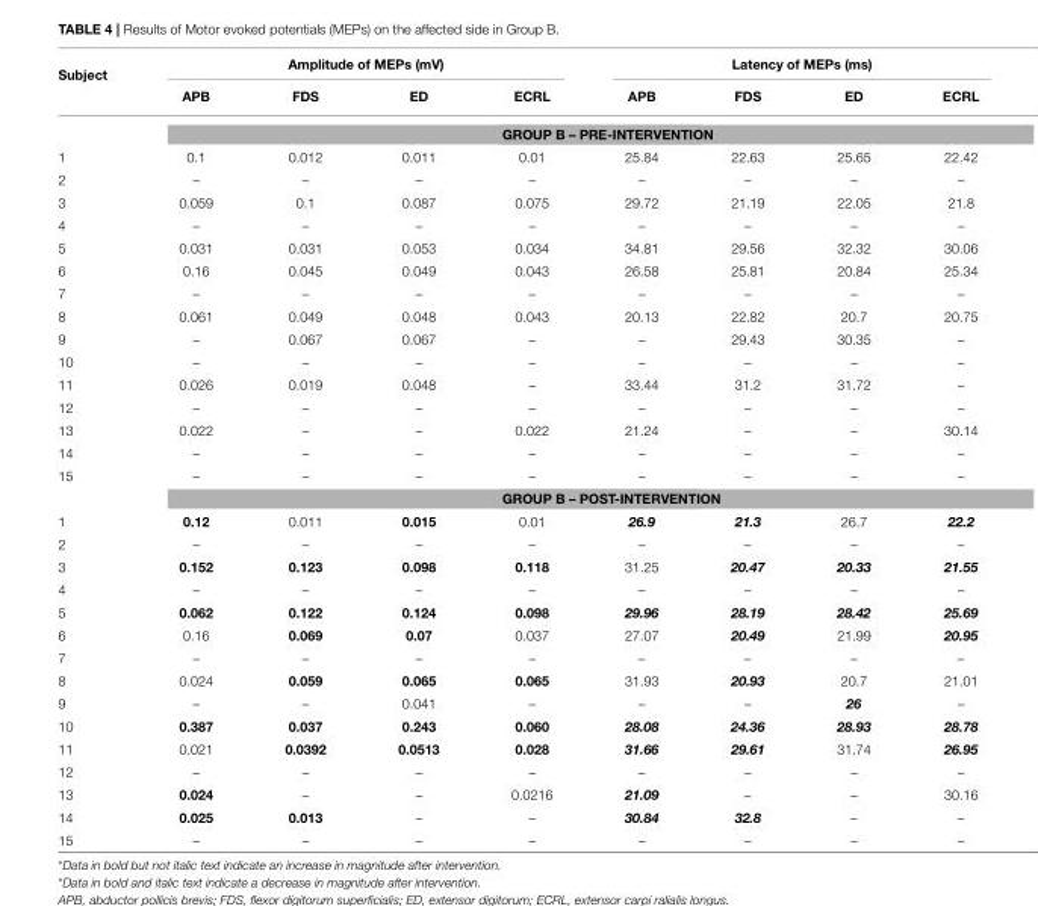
<table><thead><tr><td rowspan="2">Subject</td><td colspan="4">Amplitude of MEPs (mV)</td><td colspan="4">Latency of MEPs (ms)</td></tr><tr><td>APB</td><td>FDS</td><td>ED</td><td>ECRL</td><td>APB</td><td>FDS</td><td>ED</td><td>ECRL</td></tr></thead><tbody><tr><td></td><td colspan="8">GROUP B – PRE-INTERVENTION</td></tr><tr><td>1</td><td>0.1</td><td>0.012</td><td>0.011</td><td>0.01</td><td>25.84</td><td>22.63</td><td>25.65</td><td>22.42</td></tr><tr><td>2</td><td>–</td><td>–</td><td>–</td><td>–</td><td>–</td><td>–</td><td>–</td><td>–</td></tr><tr><td>3</td><td>0.059</td><td>0.1</td><td>0.087</td><td>0.075</td><td>29.72</td><td>21.19</td><td>22.05</td><td>21.8</td></tr><tr><td>4</td><td>–</td><td>–</td><td>–</td><td>–</td><td>–</td><td>–</td><td>–</td><td>–</td></tr><tr><td>5</td><td>0.031</td><td>0.031</td><td>0.053</td><td>0.034</td><td>34.81</td><td>29.56</td><td>32.32</td><td>30.06</td></tr><tr><td>6</td><td>0.16</td><td>0.045</td><td>0.049</td><td>0.043</td><td>26.58</td><td>25.81</td><td>20.84</td><td>25.34</td></tr><tr><td>7</td><td>–</td><td>–</td><td>–</td><td>–</td><td>–</td><td>–</td><td>–</td><td>–</td></tr><tr><td>8</td><td>0.061</td><td>0.049</td><td>0.048</td><td>0.043</td><td>20.13</td><td>22.82</td><td>20.7</td><td>20.75</td></tr><tr><td>9</td><td>–</td><td>0.067</td><td>0.067</td><td>–</td><td>–</td><td>29.43</td><td>30.35</td><td>–</td></tr><tr><td>10</td><td>–</td><td>–</td><td>–</td><td>–</td><td>–</td><td>–</td><td>–</td><td>–</td></tr><tr><td>11</td><td>0.026</td><td>0.019</td><td>0.048</td><td>–</td><td>33.44</td><td>31.2</td><td>31.72</td><td>–</td></tr><tr><td>12</td><td>–</td><td>–</td><td>–</td><td>–</td><td>–</td><td>–</td><td>–</td><td>–</td></tr><tr><td>13</td><td>0.022</td><td>–</td><td>–</td><td>0.022</td><td>21.24</td><td>–</td><td>–</td><td>30.14</td></tr><tr><td>14</td><td>–</td><td>–</td><td>–</td><td>–</td><td>–</td><td>–</td><td>–</td><td>–</td></tr><tr><td rowspan="2">15</td><td>–</td><td>–</td><td>–</td><td>–</td><td>–</td><td>–</td><td>–</td><td>–</td></tr><tr><td colspan="8">GROUP B – POST-INTERVENTION</td></tr><tr><td>1</td><td>0.12</td><td>0.011</td><td>0.015</td><td>0.01</td><td>26.9</td><td>21.3</td><td>26.7</td><td>22.2</td></tr><tr><td>2</td><td>–</td><td>–</td><td>–</td><td>–</td><td>–</td><td>–</td><td>–</td><td>–</td></tr><tr><td>3</td><td>0.152</td><td>0.123</td><td>0.098</td><td>0.118</td><td>31.25</td><td>20.47</td><td>20.33</td><td>21.55</td></tr><tr><td>4</td><td>–</td><td>–</td><td>–</td><td>–</td><td>–</td><td>–</td><td>–</td><td>–</td></tr><tr><td>5</td><td>0.062</td><td>0.122</td><td>0.124</td><td>0.098</td><td>29.96</td><td>28.19</td><td>28.42</td><td>25.69</td></tr><tr><td>6</td><td>0.16</td><td>0.069</td><td>0.07</td><td>0.037</td><td>27.07</td><td>20.49</td><td>21.99</td><td>20.95</td></tr><tr><td>7</td><td>–</td><td>–</td><td>–</td><td>–</td><td>–</td><td>–</td><td>–</td><td>–</td></tr><tr><td>8</td><td>0.024</td><td>0.059</td><td>0.065</td><td>0.065</td><td>31.93</td><td>20.93</td><td>20.7</td><td>21.01</td></tr><tr><td>9</td><td>–</td><td>–</td><td>0.041</td><td>–</td><td>–</td><td>–</td><td>26</td><td>–</td></tr><tr><td>10</td><td>0.387</td><td>0.037</td><td>0.243</td><td>0.060</td><td>28.08</td><td>24.36</td><td>28.93</td><td>28.78</td></tr><tr><td>11</td><td>0.021</td><td>0.0392</td><td>0.0513</td><td>0.028</td><td>31.66</td><td>29.61</td><td>31.74</td><td>26.95</td></tr><tr><td>12</td><td>–</td><td>–</td><td>–</td><td>–</td><td>–</td><td>–</td><td>–</td><td>–</td></tr><tr><td>13</td><td>0.024</td><td>–</td><td>–</td><td>0.0216</td><td>21.09</td><td>–</td><td>–</td><td>30.16</td></tr><tr><td>14</td><td>0.025</td><td>0.013</td><td>–</td><td>–</td><td>30.84</td><td>32.8</td><td>–</td><td>–</td></tr><tr><td>15</td><td>–</td><td>–</td><td>–</td><td>–</td><td>–</td><td>–</td><td>–</td><td>–</td></tr></tbody></table>